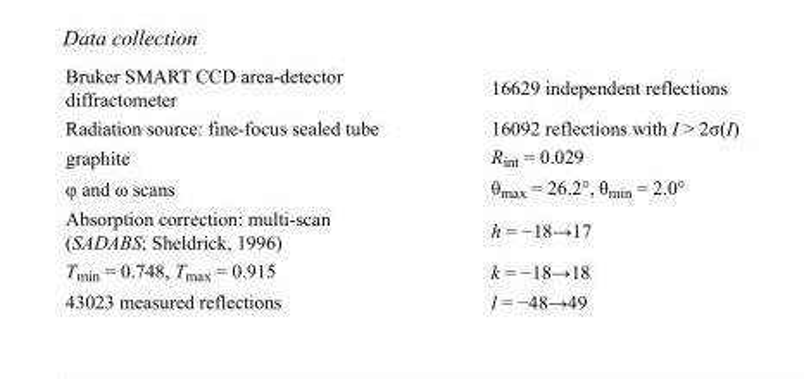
<table><tbody><tr><td>Bruker SMART CCD area-detector diffractometer</td><td>16629 independent reflections</td></tr><tr><td>Radiation source: fine-focus sealed tube</td><td>16092 reflections with I &gt; 2σ(I)</td></tr><tr><td>graphite</td><td>R<sub>int</sub> = 0.029</td></tr><tr><td>φ and ω scans</td><td>θ<sub>max</sub> = 26.2°, θ<sub>min</sub> = 2.0°</td></tr><tr><td>Absorption correction: multi-scan (SADABS; Sheldrick, 1996)</td><td>h = −18→17</td></tr><tr><td>T<sub>min</sub> = 0.748, T<sub>max</sub> = 0.915</td><td>k = −18→18</td></tr><tr><td>43023 measured reflections</td><td>l = −48→49</td></tr></tbody></table>